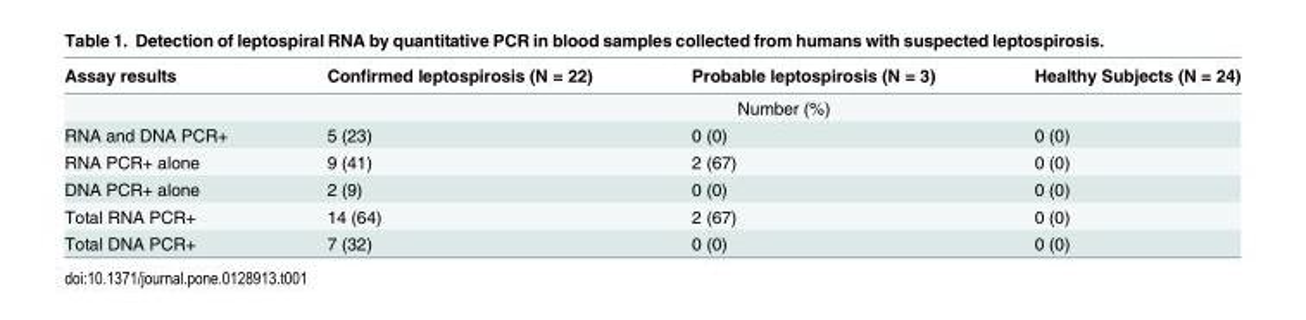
<table><thead><tr><td>Assay results</td><td>Confirmed leptospirosis (N = 22)</td><td>Probable leptospirosis (N = 3)</td><td>Healthy Subjects (N = 24)</td></tr></thead><tbody><tr><td></td><td colspan="3">Number (%)</td></tr><tr><td>RNA and DNA PCR+</td><td>5 (23)</td><td>0 (0)</td><td>0 (0)</td></tr><tr><td>RNA PCR+ alone</td><td>9 (41)</td><td>2 (67)</td><td>0 (0)</td></tr><tr><td>DNA PCR+ alone</td><td>2 (9)</td><td>0 (0)</td><td>0 (0)</td></tr><tr><td>Total RNA PCR+</td><td>14 (64)</td><td>2 (67)</td><td>0 (0)</td></tr><tr><td>Total DNA PCR+</td><td>7 (32)</td><td>0 (0)</td><td>0 (0)</td></tr></tbody></table>